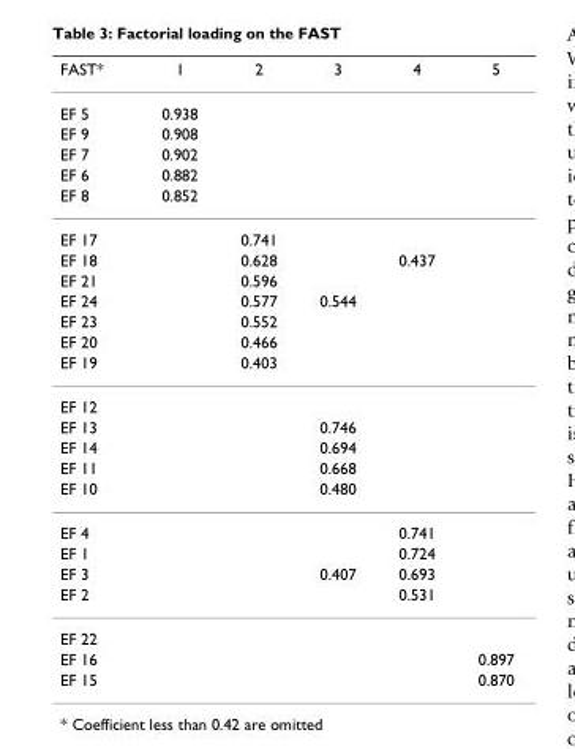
<table><thead><tr><td>FAST*</td><td>1</td><td>2</td><td>3</td><td>4</td><td>5</td></tr></thead><tbody><tr><td>EF 5</td><td>0.938</td><td></td><td></td><td></td><td></td></tr><tr><td>EF 9</td><td>0.908</td><td></td><td></td><td></td><td></td></tr><tr><td>EF 7</td><td>0.902</td><td></td><td></td><td></td><td></td></tr><tr><td>EF 6</td><td>0.882</td><td></td><td></td><td></td><td></td></tr><tr><td>EF 8</td><td>0.852</td><td></td><td></td><td></td><td></td></tr><tr><td>EF 17</td><td></td><td>0.741</td><td></td><td></td><td></td></tr><tr><td>EF 18</td><td></td><td>0.628</td><td></td><td>0.437</td><td></td></tr><tr><td>EF 21</td><td></td><td>0.596</td><td></td><td></td><td></td></tr><tr><td>EF 24</td><td></td><td>0.577</td><td>0.544</td><td></td><td></td></tr><tr><td>EF 23</td><td></td><td>0.552</td><td></td><td></td><td></td></tr><tr><td>EF 20</td><td></td><td>0.466</td><td></td><td></td><td></td></tr><tr><td>EF 19</td><td></td><td>0.403</td><td></td><td></td><td></td></tr><tr><td colspan="6">EF 12</td></tr><tr><td>EF 13</td><td></td><td></td><td>0.746</td><td></td><td></td></tr><tr><td>EF 14</td><td></td><td></td><td>0.694</td><td></td><td></td></tr><tr><td>EF 11</td><td></td><td></td><td>0.668</td><td></td><td></td></tr><tr><td>EF 10</td><td></td><td></td><td>0.480</td><td></td><td></td></tr><tr><td>EF 4</td><td></td><td></td><td></td><td>0.741</td><td></td></tr><tr><td>EF 1</td><td></td><td></td><td></td><td>0.724</td><td></td></tr><tr><td>EF 3</td><td></td><td></td><td>0.407</td><td>0.693</td><td></td></tr><tr><td>EF 2</td><td></td><td></td><td></td><td>0.531</td><td></td></tr><tr><td colspan="6">EF 22</td></tr><tr><td>EF 16</td><td></td><td></td><td></td><td></td><td>0.897</td></tr><tr><td>EF 15</td><td></td><td></td><td></td><td></td><td>0.870</td></tr></tbody></table>